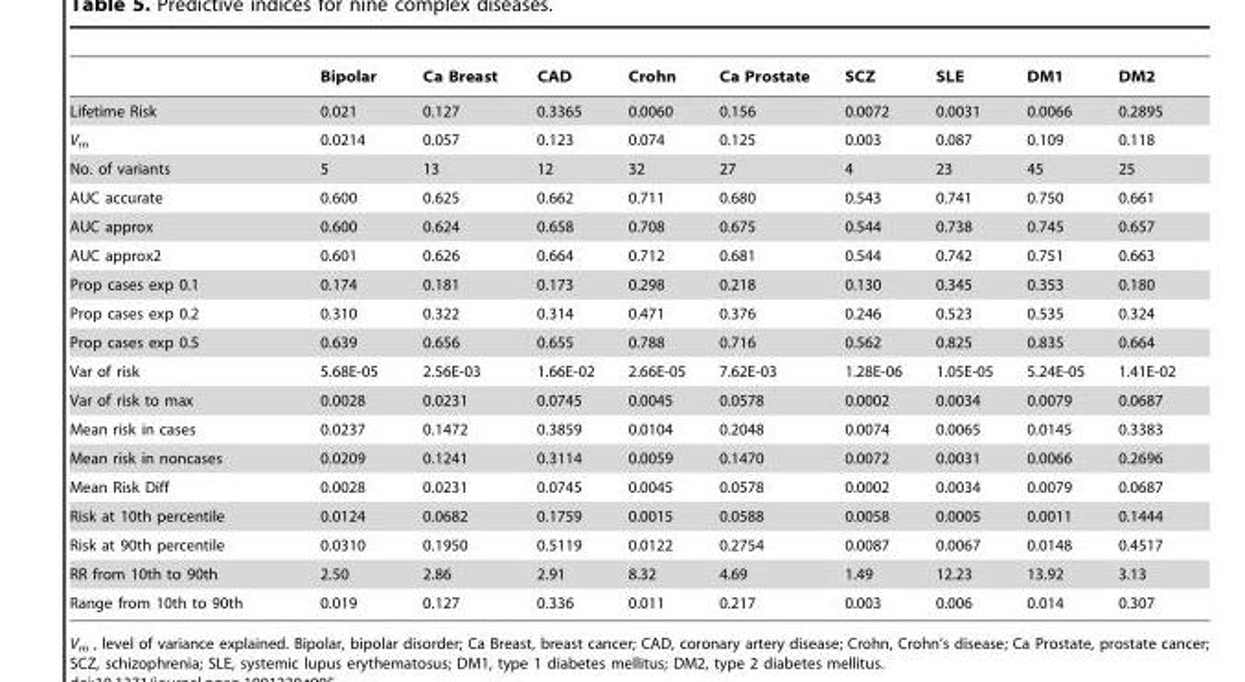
<table><thead><tr><td></td><td>Bipolar</td><td>Ca Breast</td><td>CAD</td><td>Crohn</td><td>Ca Prostate</td><td>SCZ</td><td>SLE</td><td>DM1</td><td>DM2</td></tr></thead><tbody><tr><td>Lifetime Risk</td><td>0.021</td><td>0.127</td><td>0.3365</td><td>0.0060</td><td>0.156</td><td>0.0072</td><td>0.0031</td><td>0.0066</td><td>0.2895</td></tr><tr><td>V<sub>m</sub></td><td>0.0214</td><td>0.057</td><td>0.123</td><td>0.074</td><td>0.125</td><td>0.003</td><td>0.087</td><td>0.109</td><td>0.118</td></tr><tr><td>No. of variants</td><td>5</td><td>13</td><td>12</td><td>32</td><td>27</td><td>4</td><td>23</td><td>45</td><td>25</td></tr><tr><td>AUC accurate</td><td>0.600</td><td>0.625</td><td>0.662</td><td>0.711</td><td>0.680</td><td>0.543</td><td>0.741</td><td>0.750</td><td>0.661</td></tr><tr><td>AUC approx</td><td>0.600</td><td>0.624</td><td>0.658</td><td>0.708</td><td>0.675</td><td>0.544</td><td>0.738</td><td>0.745</td><td>0.657</td></tr><tr><td>AUC approx2</td><td>0.601</td><td>0.626</td><td>0.664</td><td>0.712</td><td>0.681</td><td>0.544</td><td>0.742</td><td>0.751</td><td>0.663</td></tr><tr><td>Prop cases exp 0.1</td><td>0.174</td><td>0.181</td><td>0.173</td><td>0.298</td><td>0.218</td><td>0.130</td><td>0.345</td><td>0.353</td><td>0.180</td></tr><tr><td>Prop cases exp 0.2</td><td>0.310</td><td>0.322</td><td>0.314</td><td>0.471</td><td>0.376</td><td>0.246</td><td>0.523</td><td>0.535</td><td>0.324</td></tr><tr><td>Prop cases exp 0.5</td><td>0.639</td><td>0.656</td><td>0.655</td><td>0.788</td><td>0.716</td><td>0.562</td><td>0.825</td><td>0.835</td><td>0.664</td></tr><tr><td>Var of risk</td><td>5.68E-05</td><td>2.56E-03</td><td>1.66E-02</td><td>2.66E-05</td><td>7.62E-03</td><td>1.28E-06</td><td>1.05E-05</td><td>5.24E-05</td><td>1.41E-02</td></tr><tr><td>Var of risk to max</td><td>0.0028</td><td>0.0231</td><td>0.0745</td><td>0.0045</td><td>0.0578</td><td>0.0002</td><td>0.0034</td><td>0.0079</td><td>0.0687</td></tr><tr><td>Mean risk in cases</td><td>0.0237</td><td>0.1472</td><td>0.3859</td><td>0.0104</td><td>0.2048</td><td>0.0074</td><td>0.0065</td><td>0.0145</td><td>0.3383</td></tr><tr><td>Mean risk in noncases</td><td>0.0209</td><td>0.1241</td><td>0.3114</td><td>0.0059</td><td>0.1470</td><td>0.0072</td><td>0.0031</td><td>0.0066</td><td>0.2696</td></tr><tr><td>Mean Risk Diff</td><td>0.0028</td><td>0.0231</td><td>0.0745</td><td>0.0045</td><td>0.0578</td><td>0.0002</td><td>0.0034</td><td>0.0079</td><td>0.0687</td></tr><tr><td>Risk at 10th percentile</td><td>0.0124</td><td>0.0682</td><td>0.1759</td><td>0.0015</td><td>0.0588</td><td>0.0058</td><td>0.0005</td><td>0.0011</td><td>0.1444</td></tr><tr><td>Risk at 90th percentile</td><td>0.0310</td><td>0.1950</td><td>0.5119</td><td>0.0122</td><td>0.2754</td><td>0.0087</td><td>0.0067</td><td>0.0148</td><td>0.4517</td></tr><tr><td>RR from 10th to 90th</td><td>2.50</td><td>2.86</td><td>2.91</td><td>8.32</td><td>4.69</td><td>1.49</td><td>12.23</td><td>13.92</td><td>3.13</td></tr><tr><td>Range from 10th to 90th</td><td>0.019</td><td>0.127</td><td>0.336</td><td>0.011</td><td>0.217</td><td>0.003</td><td>0.006</td><td>0.014</td><td>0.307</td></tr></tbody></table>